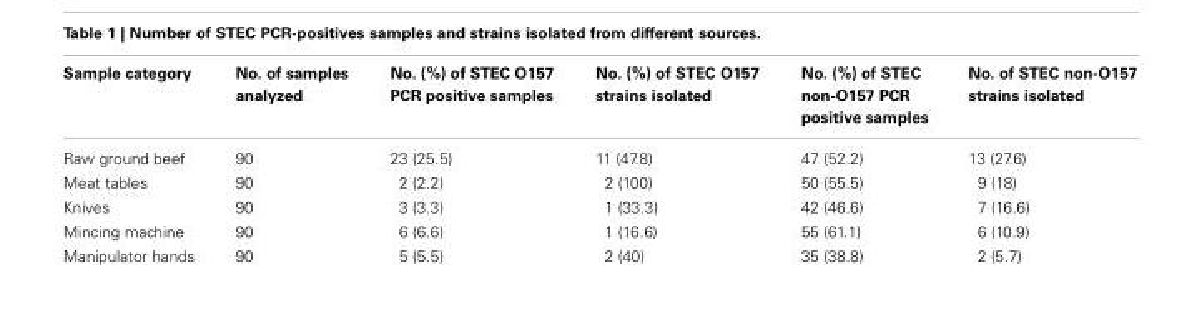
<table><thead><tr><td>Sample category</td><td>No. of samples analyzed</td><td>No. (%) of STEC O157 PCR positive samples</td><td>No. (%) of STEC O157 strains isolated</td><td>No. (%) of STEC non-O157 PCR positive samples</td><td>No. of STEC non-O157 strains isolated</td></tr></thead><tbody><tr><td>Raw ground beef</td><td>90</td><td>23 (25.5)</td><td>11 (47.8)</td><td>47 (52.2)</td><td>13 (27.6)</td></tr><tr><td>Meat tables</td><td>90</td><td>2 (2.2)</td><td>2 (100)</td><td>50 (55.5)</td><td>9 (18)</td></tr><tr><td>Knives</td><td>90</td><td>3 (3.3)</td><td>1 (33.3)</td><td>42 (46.6)</td><td>7 (16.6)</td></tr><tr><td>Mincing machine</td><td>90</td><td>6 (6.6)</td><td>1 (16.6)</td><td>55 (61.1)</td><td>6 (10.9)</td></tr><tr><td>Manipulator hands</td><td>90</td><td>5 (5.5)</td><td>2 (40)</td><td>35 (38.8)</td><td>2 (5.7)</td></tr></tbody></table>